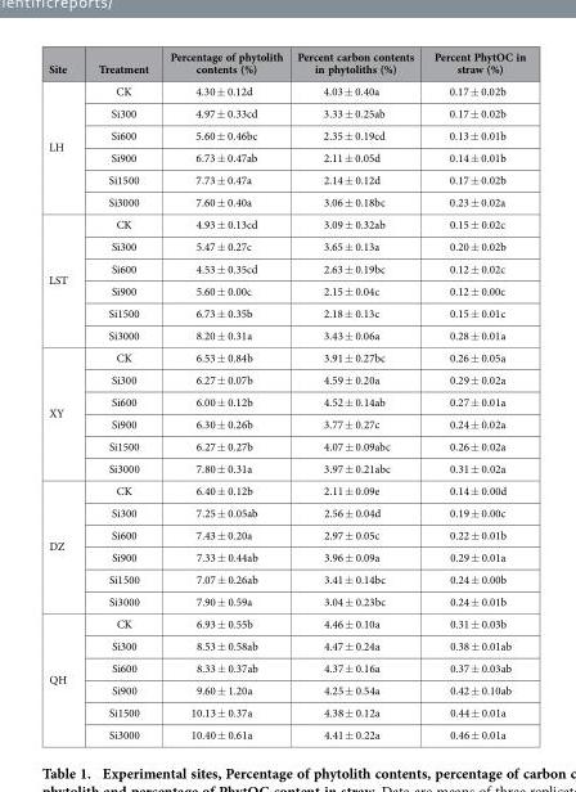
<table><thead><tr><td>Site</td><td>Treatment</td><td>Percentage of phytolith contents (%)</td><td>Percent carbon contents in phytoliths (%)</td><td>Percent PhytOC in straw (%)</td></tr></thead><tbody><tr><td rowspan="6">LH</td><td>CK</td><td>4.30 ± 0.12d</td><td>4.03 ± 0.40a</td><td>0.17 ± 0.02b</td></tr><tr><td>Si300</td><td>4.97 ± 0.33cd</td><td>3.33 ± 0.25ab</td><td>0.17 ± 0.02b</td></tr><tr><td>Si600</td><td>5.60 ± 0.46bc</td><td>2.35 ± 0.19cd</td><td>0.13 ± 0.01b</td></tr><tr><td>Si900</td><td>6.73 ± 0.47ab</td><td>2.11 ± 0.05d</td><td>0.14 ± 0.01b</td></tr><tr><td>Si1500</td><td>7.73 ± 0.47a</td><td>2.14 ± 0.12d</td><td>0.17 ± 0.02b</td></tr><tr><td>Si3000</td><td>7.60 ± 0.40a</td><td>3.06 ± 0.18bc</td><td>0.23 ± 0.02a</td></tr><tr><td rowspan="6">LST</td><td>CK</td><td>4.93 ± 0.13cd</td><td>3.09 ± 0.32ab</td><td>0.15 ± 0.02c</td></tr><tr><td>Si300</td><td>5.47 ± 0.27c</td><td>3.65 ± 0.13a</td><td>0.20 ± 0.02b</td></tr><tr><td>Si600</td><td>4.53 ± 0.35cd</td><td>2.63 ± 0.19bc</td><td>0.12 ± 0.02c</td></tr><tr><td>Si900</td><td>5.60 ± 0.00c</td><td>2.15 ± 0.04c</td><td>0.12 ± 0.00c</td></tr><tr><td>Si1500</td><td>6.73 ± 0.35b</td><td>2.18 ± 0.13c</td><td>0.15 ± 0.01c</td></tr><tr><td>Si3000</td><td>8.20 ± 0.31a</td><td>3.43 ± 0.06a</td><td>0.28 ± 0.01a</td></tr><tr><td rowspan="6">XY</td><td>CK</td><td>6.53 ± 0.84b</td><td>3.91 ± 0.27bc</td><td>0.26 ± 0.05a</td></tr><tr><td>Si300</td><td>6.27 ± 0.07b</td><td>4.59 ± 0.20a</td><td>0.29 ± 0.02a</td></tr><tr><td>Si600</td><td>6.00 ± 0.12b</td><td>4.52 ± 0.14ab</td><td>0.27 ± 0.01a</td></tr><tr><td>Si900</td><td>6.30 ± 0.26b</td><td>3.77 ± 0.27c</td><td>0.24 ± 0.02a</td></tr><tr><td>Si1500</td><td>6.27 ± 0.27b</td><td>4.07 ± 0.09abc</td><td>0.26 ± 0.02a</td></tr><tr><td>Si3000</td><td>7.80 ± 0.31a</td><td>3.97 ± 0.21abc</td><td>0.31 ± 0.02a</td></tr><tr><td rowspan="6">DZ</td><td>CK</td><td>6.40 ± 0.12b</td><td>2.11 ± 0.09e</td><td>0.14 ± 0.00d</td></tr><tr><td>Si300</td><td>7.25 ± 0.05ab</td><td>2.56 ± 0.04d</td><td>0.19 ± 0.00c</td></tr><tr><td>Si600</td><td>7.43 ± 0.20a</td><td>2.97 ± 0.05c</td><td>0.22 ± 0.01b</td></tr><tr><td>Si900</td><td>7.33 ± 0.44ab</td><td>3.96 ± 0.09a</td><td>0.29 ± 0.01a</td></tr><tr><td>Si1500</td><td>7.07 ± 0.26ab</td><td>3.41 ± 0.14bc</td><td>0.24 ± 0.00b</td></tr><tr><td>Si3000</td><td>7.90 ± 0.59a</td><td>3.04 ± 0.23bc</td><td>0.24 ± 0.01b</td></tr><tr><td rowspan="6">QH</td><td>CK</td><td>6.93 ± 0.55b</td><td>4.46 ± 0.10a</td><td>0.31 ± 0.03b</td></tr><tr><td>Si300</td><td>8.53 ± 0.58ab</td><td>4.47 ± 0.24a</td><td>0.38 ± 0.01ab</td></tr><tr><td>Si600</td><td>8.33 ± 0.37ab</td><td>4.37 ± 0.16a</td><td>0.37 ± 0.03ab</td></tr><tr><td>Si900</td><td>9.60 ± 1.20a</td><td>4.25 ± 0.54a</td><td>0.42 ± 0.10ab</td></tr><tr><td>Si1500</td><td>10.13 ± 0.37a</td><td>4.38 ± 0.12a</td><td>0.44 ± 0.01a</td></tr><tr><td>Si3000</td><td>10.40 ± 0.61a</td><td>4.41 ± 0.22a</td><td>0.46 ± 0.01a</td></tr></tbody></table>